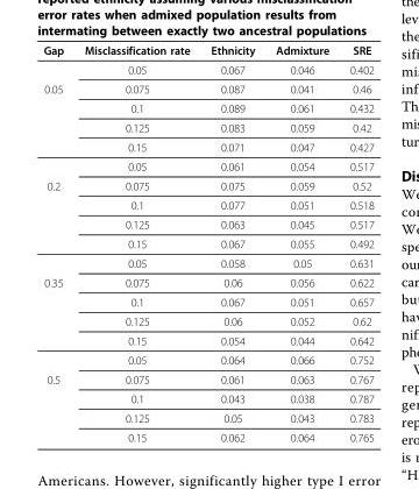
<table><thead><tr><td>Gap</td><td>Misclassification rate</td><td>Ethnicity</td><td>Admixture</td><td>SRE</td></tr></thead><tbody><tr><td></td><td>0.05</td><td>0.067</td><td>0.046</td><td>0.402</td></tr><tr><td rowspan="5">0.05</td><td>0.075</td><td>0.087</td><td>0.041</td><td>0.46</td></tr><tr><td>0.1</td><td>0.089</td><td>0.061</td><td>0.432</td></tr><tr><td>0.125</td><td>0.083</td><td>0.059</td><td>0.42</td></tr><tr><td>0.15</td><td>0.071</td><td>0.047</td><td>0.427</td></tr><tr><td>0.05</td><td>0.061</td><td>0.054</td><td>0.517</td></tr><tr><td rowspan="5">0.2</td><td>0.075</td><td>0.075</td><td>0.059</td><td>0.52</td></tr><tr><td>0.1</td><td>0.077</td><td>0.051</td><td>0.518</td></tr><tr><td>0.125</td><td>0.063</td><td>0.045</td><td>0.517</td></tr><tr><td>0.15</td><td>0.067</td><td>0.055</td><td>0.492</td></tr><tr><td>0.05</td><td>0.058</td><td>0.05</td><td>0.631</td></tr><tr><td rowspan="5">0.35</td><td>0.075</td><td>0.06</td><td>0.056</td><td>0.622</td></tr><tr><td>0.1</td><td>0.067</td><td>0.051</td><td>0.657</td></tr><tr><td>0.125</td><td>0.06</td><td>0.052</td><td>0.62</td></tr><tr><td>0.15</td><td>0.054</td><td>0.044</td><td>0.642</td></tr><tr><td>0.05</td><td>0.064</td><td>0.066</td><td>0.752</td></tr><tr><td rowspan="4">0.5</td><td>0.075</td><td>0.061</td><td>0.063</td><td>0.767</td></tr><tr><td>0.1</td><td>0.043</td><td>0.038</td><td>0.787</td></tr><tr><td>0.125</td><td>0.05</td><td>0.043</td><td>0.783</td></tr><tr><td>0.15</td><td>0.062</td><td>0.064</td><td>0.765</td></tr></tbody></table>